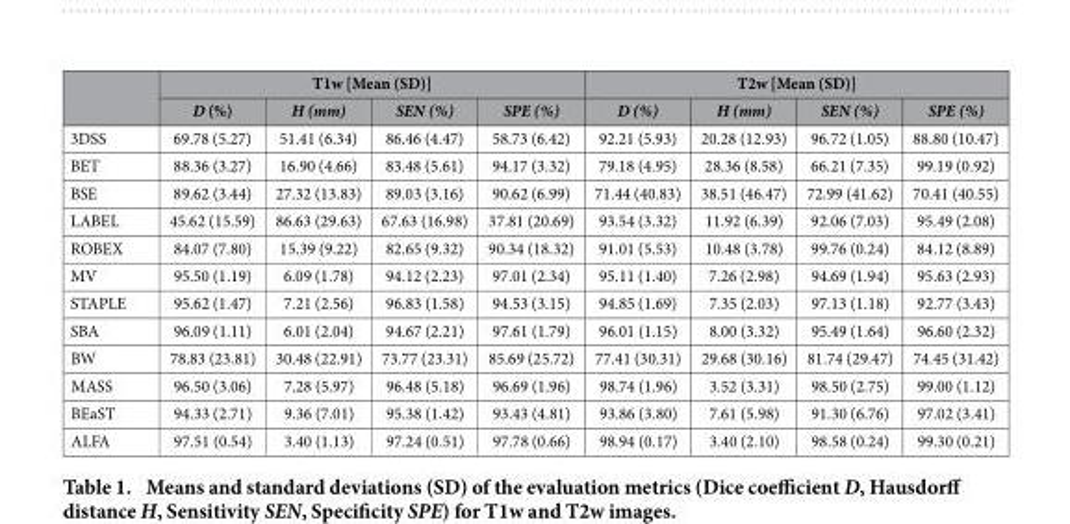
<table><thead><tr><td rowspan="2"></td><td colspan="4">T1w [Mean (SD)]</td><td colspan="4">T2w [Mean (SD)]</td></tr><tr><td>D (%)</td><td>H (mm)</td><td>SEN (%)</td><td>SPE (%)</td><td>D (%)</td><td>H (mm)</td><td>SEN (%)</td><td>SPE (%)</td></tr></thead><tbody><tr><td>3DSS</td><td>69.78 (5.27)</td><td>51.41 (6.34)</td><td>86.46 (4.47)</td><td>58.73 (6.42)</td><td>92.21 (5.93)</td><td>20.28 (12.93)</td><td>96.72 (1.05)</td><td>88.80 (10.47)</td></tr><tr><td>BET</td><td>88.36 (3.27)</td><td>16.90 (4.66)</td><td>83.48 (5.61)</td><td>94.17 (3.32)</td><td>79.18 (4.95)</td><td>28.36 (8.58)</td><td>66.21 (7.35)</td><td>99.19 (0.92)</td></tr><tr><td>BSE</td><td>89.62 (3.44)</td><td>27.32 (13.83)</td><td>89.03 (3.16)</td><td>90.62 (6.99)</td><td>71.44 (40.83)</td><td>38.51 (46.47)</td><td>72.99 (41.62)</td><td>70.41 (40.55)</td></tr><tr><td>LABEL</td><td>45.62 (15.59)</td><td>86.63 (29.63)</td><td>67.63 (16.98)</td><td>37.81 (20.69)</td><td>93.54 (3.32)</td><td>11.92 (6.39)</td><td>92.06 (7.03)</td><td>95.49 (2.08)</td></tr><tr><td>ROBEX</td><td>84.07 (7.80)</td><td>15.39 (9.22)</td><td>82.65 (9.32)</td><td>90.34 (18.32)</td><td>91.01 (5.53)</td><td>10.48 (3.78)</td><td>99.76 (0.24)</td><td>84.12 (8.89)</td></tr><tr><td>MV</td><td>95.50 (1.19)</td><td>6.09 (1.78)</td><td>94.12 (2.23)</td><td>97.01 (2.34)</td><td>95.11 (1.40)</td><td>7.26 (2.98)</td><td>94.69 (1.94)</td><td>95.63 (2.93)</td></tr><tr><td>STAPLE</td><td>95.62 (1.47)</td><td>7.21 (2.56)</td><td>96.83 (1.58)</td><td>94.53 (3.15)</td><td>94.85 (1.69)</td><td>7.35 (2.03)</td><td>97.13 (1.18)</td><td>92.77 (3.43)</td></tr><tr><td>SBA</td><td>96.09 (1.11)</td><td>6.01 (2.04)</td><td>94.67 (2.21)</td><td>97.61 (1.79)</td><td>96.01 (1.15)</td><td>8.00 (3.32)</td><td>95.49 (1.64)</td><td>96.60 (2.32)</td></tr><tr><td>BW</td><td>78.83 (23.81)</td><td>30.48 (22.91)</td><td>73.77 (23.31)</td><td>85.69 (25.72)</td><td>77.41 (30.31)</td><td>29.68 (30.16)</td><td>81.74 (29.47)</td><td>74.45 (31.42)</td></tr><tr><td>MASS</td><td>96.50 (3.06)</td><td>7.28 (5.97)</td><td>96.48 (5.18)</td><td>96.69 (1.96)</td><td>98.74 (1.96)</td><td>3.52 (3.31)</td><td>98.50 (2.75)</td><td>99.00 (1.12)</td></tr><tr><td>BEaST</td><td>94.33 (2.71)</td><td>9.36 (7.01)</td><td>95.38 (1.42)</td><td>93.43 (4.81)</td><td>93.86 (3.80)</td><td>7.61 (5.98)</td><td>91.30 (6.76)</td><td>97.02 (3.41)</td></tr><tr><td>ALFA</td><td>97.51 (0.54)</td><td>3.40 (1.13)</td><td>97.24 (0.51)</td><td>97.78 (0.66)</td><td>98.94 (0.17)</td><td>3.40 (2.10)</td><td>98.58 (0.24)</td><td>99.30 (0.21)</td></tr></tbody></table>